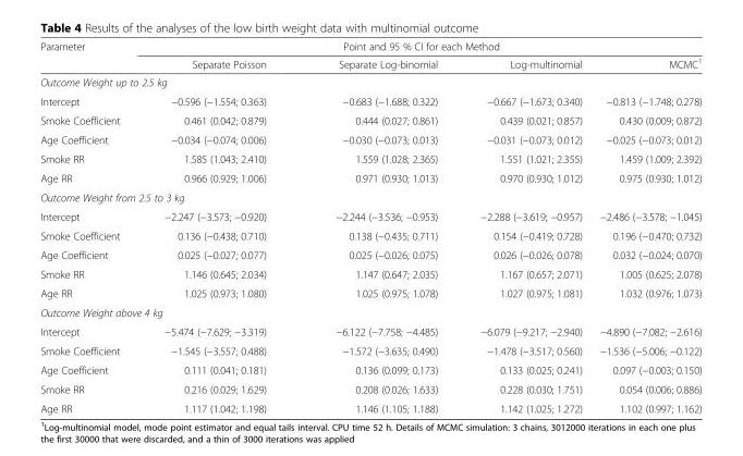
<table><thead><tr><td rowspan="2">Parameter</td><td colspan="4">Point and 95 % CI for each Method</td></tr><tr><td>Separate Poisson</td><td>Separate Log-binomial</td><td>Log-multinomial</td><td>MCMC<sup>1</sup></td></tr></thead><tbody><tr><td colspan="5">Outcome Weight up to 2.5 kg</td></tr><tr><td>Intercept</td><td>−0.596 (−1.554; 0.363)</td><td>−0.683 (−1.688; 0.322)</td><td>−0.667 (−1.673; 0.340)</td><td>−0.813 (−1.748; 0.278)</td></tr><tr><td>Smoke Coefficient</td><td>0.461 (0.042; 0.879)</td><td>0.444 (0.027; 0.861)</td><td>0.439 (0.021; 0.857)</td><td>0.430 (0.009; 0.872)</td></tr><tr><td>Age Coefficient</td><td>−0.034 (−0.074; 0.006)</td><td>−0.030 (−0.073; 0.013)</td><td>−0.031 (−0.073; 0.012)</td><td>−0.025 (−0.073; 0.012)</td></tr><tr><td>Smoke RR</td><td>1.585 (1.043; 2.410)</td><td>1.559 (1.028; 2.365)</td><td>1.551 (1.021; 2.355)</td><td>1.459 (1.009; 2.392)</td></tr><tr><td>Age RR</td><td>0.966 (0.929; 1.006)</td><td>0.971 (0.930; 1.013)</td><td>0.970 (0.930; 1.012)</td><td>0.975 (0.930; 1.012)</td></tr><tr><td colspan="5">Outcome Weight from 2.5 to 3 kg</td></tr><tr><td>Intercept</td><td>−2.247 (−3.573; −0.920)</td><td>−2.244 (−3.536; −0.953)</td><td>−2.288 (−3.619; −0.957)</td><td>−2.486 (−3.578; −1.045)</td></tr><tr><td>Smoke Coefficient</td><td>0.136 (−0.438; 0.710)</td><td>0.138 (−0.435; 0.711)</td><td>0.154 (−0.419; 0.728)</td><td>0.196 (−0.470; 0.732)</td></tr><tr><td>Age Coefficient</td><td>0.025 (−0.027; 0.077)</td><td>0.025 (−0.026; 0.075)</td><td>0.026 (−0.026; 0.078)</td><td>0.032 (−0.024; 0.070)</td></tr><tr><td>Smoke RR</td><td>1.146 (0.645; 2.034)</td><td>1.147 (0.647; 2.035)</td><td>1.167 (0.657; 2.071)</td><td>1.005 (0.625; 2.078)</td></tr><tr><td>Age RR</td><td>1.025 (0.973; 1.080)</td><td>1.025 (0.975; 1.078)</td><td>1.027 (0.975; 1.081)</td><td>1.032 (0.976; 1.073)</td></tr><tr><td colspan="5">Outcome Weight above 4 kg</td></tr><tr><td>Intercept</td><td>−5.474 (−7.629; −3.319)</td><td>−6.122 (−7.758; −4.485)</td><td>−6.079 (−9.217; −2.940)</td><td>−4.890 (−7.082; −2.616)</td></tr><tr><td>Smoke Coefficient</td><td>−1.545 (−3.557; 0.488)</td><td>−1.572 (−3.635; 0.490)</td><td>−1.478 (−3.517; 0.560)</td><td>−1.536 (−5.006; −0.122)</td></tr><tr><td>Age Coefficient</td><td>0.111 (0.041; 0.181)</td><td>0.136 (0.099; 0.173)</td><td>0.133 (0.025; 0.241)</td><td>0.097 (−0.003; 0.150)</td></tr><tr><td>Smoke RR</td><td>0.216 (0.029; 1.629)</td><td>0.208 (0.026; 1.633)</td><td>0.228 (0.030; 1.751)</td><td>0.054 (0.006; 0.886)</td></tr><tr><td>Age RR</td><td>1.117 (1.042; 1.198)</td><td>1.146 (1.105; 1.188)</td><td>1.142 (1.025; 1.272)</td><td>1.102 (0.997; 1.162)</td></tr></tbody></table>